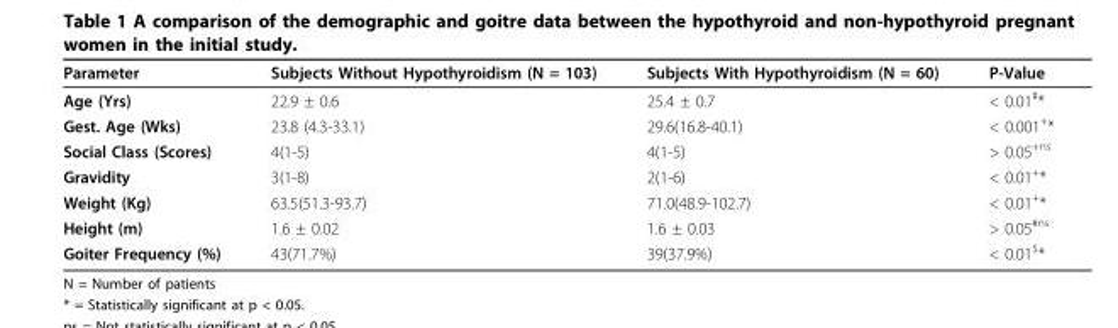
<table><thead><tr><td>Parameter</td><td>Subjects Without Hypothyroidism (N = 103)</td><td>Subjects With Hypothyroidism (N = 60)</td><td>P-Value</td></tr></thead><tbody><tr><td>Age (Yrs)</td><td>22.9 ± 0.6</td><td>25.4 ± 0.7</td><td>&lt; 0.01<sup>#</sup>*</td></tr><tr><td>Gest. Age (Wks)</td><td>23.8 (4.3-33.1)</td><td>29.6(16.8-40.1)</td><td>&lt; 0.001<sup>+</sup>*</td></tr><tr><td>Social Class (Scores)</td><td>4(1-5)</td><td>4(1-5)</td><td>&gt; 0.05<sup>+ns</sup></td></tr><tr><td>Gravidity</td><td>3(1-8)</td><td>2(1-6)</td><td>&lt; 0.01<sup>+</sup>*</td></tr><tr><td>Weight (Kg)</td><td>63.5(51.3-93.7)</td><td>71.0(48.9-102.7)</td><td>&lt; 0.01<sup>+</sup>*</td></tr><tr><td>Height (m)</td><td>1.6 ± 0.02</td><td>1.6 ± 0.03</td><td>&gt; 0.05<sup>#ns</sup></td></tr><tr><td>Goiter Frequency (%)</td><td>43(71.7%)</td><td>39(37.9%)</td><td>&lt; 0.01<sup>$</sup>*</td></tr></tbody></table>